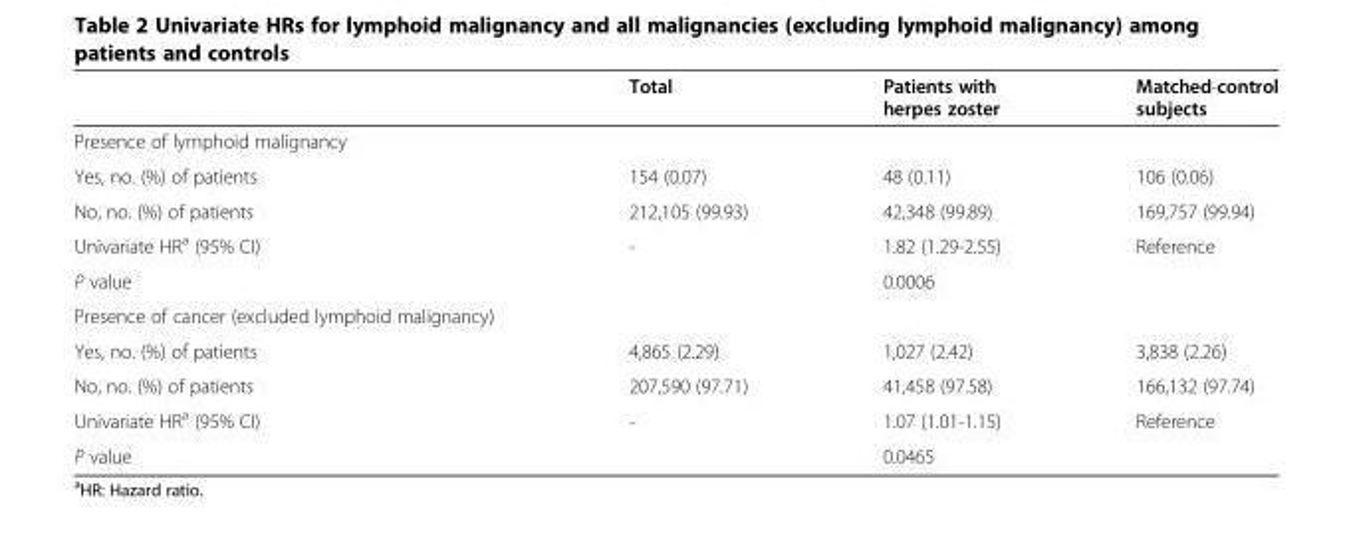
<table><thead><tr><td></td><td>Total</td><td>Patients with herpes zoster</td><td>Matched-control subjects</td></tr></thead><tbody><tr><td colspan="4">Presence of lymphoid malignancy</td></tr><tr><td>Yes, no. (%) of patients</td><td>154 (0.07)</td><td>48 (0.11)</td><td>106 (0.06)</td></tr><tr><td>No, no. (%) of patients</td><td>212,105 (99.93)</td><td>42,348 (99.89)</td><td>169,757 (99.94)</td></tr><tr><td>Univariate HR<sup>a</sup> (95% CI)</td><td>-</td><td>1.82 (1.29-2.55)</td><td>Reference</td></tr><tr><td>P value</td><td></td><td>0.0006</td><td></td></tr><tr><td colspan="4">Presence of cancer (excluded lymphoid malignancy)</td></tr><tr><td>Yes, no. (%) of patients</td><td>4,865 (2.29)</td><td>1,027 (2.42)</td><td>3,838 (2.26)</td></tr><tr><td>No, no. (%) of patients</td><td>207,590 (97.71)</td><td>41,458 (97.58)</td><td>166,132 (97.74)</td></tr><tr><td>Univariate HR<sup>a</sup> (95% CI)</td><td>-</td><td>1.07 (1.01-1.15)</td><td>Reference</td></tr><tr><td>P value</td><td></td><td>0.0465</td><td></td></tr></tbody></table>